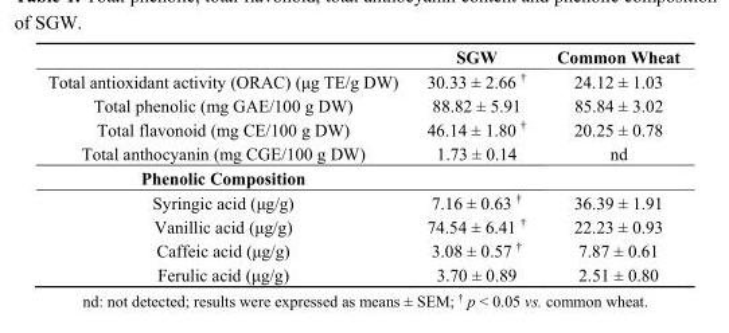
<table><thead><tr><td></td><td>SGW</td><td>Common Wheat</td></tr></thead><tbody><tr><td>Total antioxidant activity (ORAC) (μg TE/g DW)</td><td>30.33 ± 2.66 <sup>†</sup></td><td>24.12 ± 1.03</td></tr><tr><td>Total phenolic (mg GAE/100 g DW)</td><td>88.82 ± 5.91</td><td>85.84 ± 3.02</td></tr><tr><td>Total flavonoid (mg CE/100 g DW)</td><td>46.14 ± 1.80 <sup>†</sup></td><td>20.25 ± 0.78</td></tr><tr><td>Total anthocyanin (mg CGE/100 g DW)</td><td>1.73 ± 0.14</td><td>nd</td></tr><tr><td colspan="3">Phenolic Composition</td></tr><tr><td>Syringic acid (μg/g)</td><td>7.16 ± 0.63 <sup>†</sup></td><td>36.39 ± 1.91</td></tr><tr><td>Vanillic acid (μg/g)</td><td>74.54 ± 6.41 <sup>†</sup></td><td>22.23 ± 0.93</td></tr><tr><td>Caffeic acid (μg/g)</td><td>3.08 ± 0.57 <sup>†</sup></td><td>7.87 ± 0.61</td></tr><tr><td>Ferulic acid (μg/g)</td><td>3.70 ± 0.89</td><td>2.51 ± 0.80</td></tr></tbody></table>